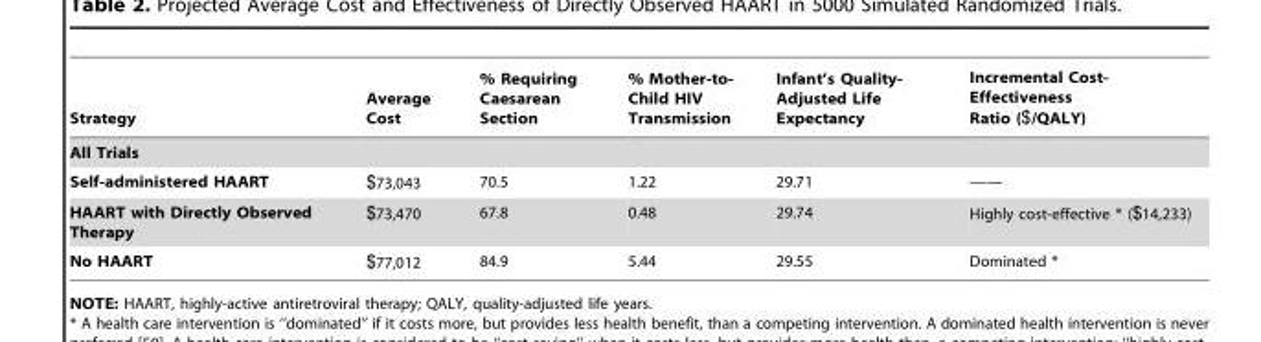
<table><thead><tr><td>Strategy</td><td>Average Cost</td><td>% Requiring Caesarean Section</td><td>% Mother-to- Child HIV Transmission</td><td>Infant’s Quality- Adjusted Life Expectancy</td><td>Incremental Cost- Effectiveness Ratio ($/QALY)</td></tr></thead><tbody><tr><td colspan="6">All Trials</td></tr><tr><td>Self-administered HAART</td><td>$73,043</td><td>70.5</td><td>1.22</td><td>29.71</td><td>——</td></tr><tr><td>HAART with Directly Observed Therapy</td><td>$73,470</td><td>67.8</td><td>0.48</td><td>29.74</td><td>Highly cost-effective * ($14,233)</td></tr><tr><td>No HAART</td><td>$77,012</td><td>84.9</td><td>5.44</td><td>29.55</td><td>Dominated *</td></tr></tbody></table>